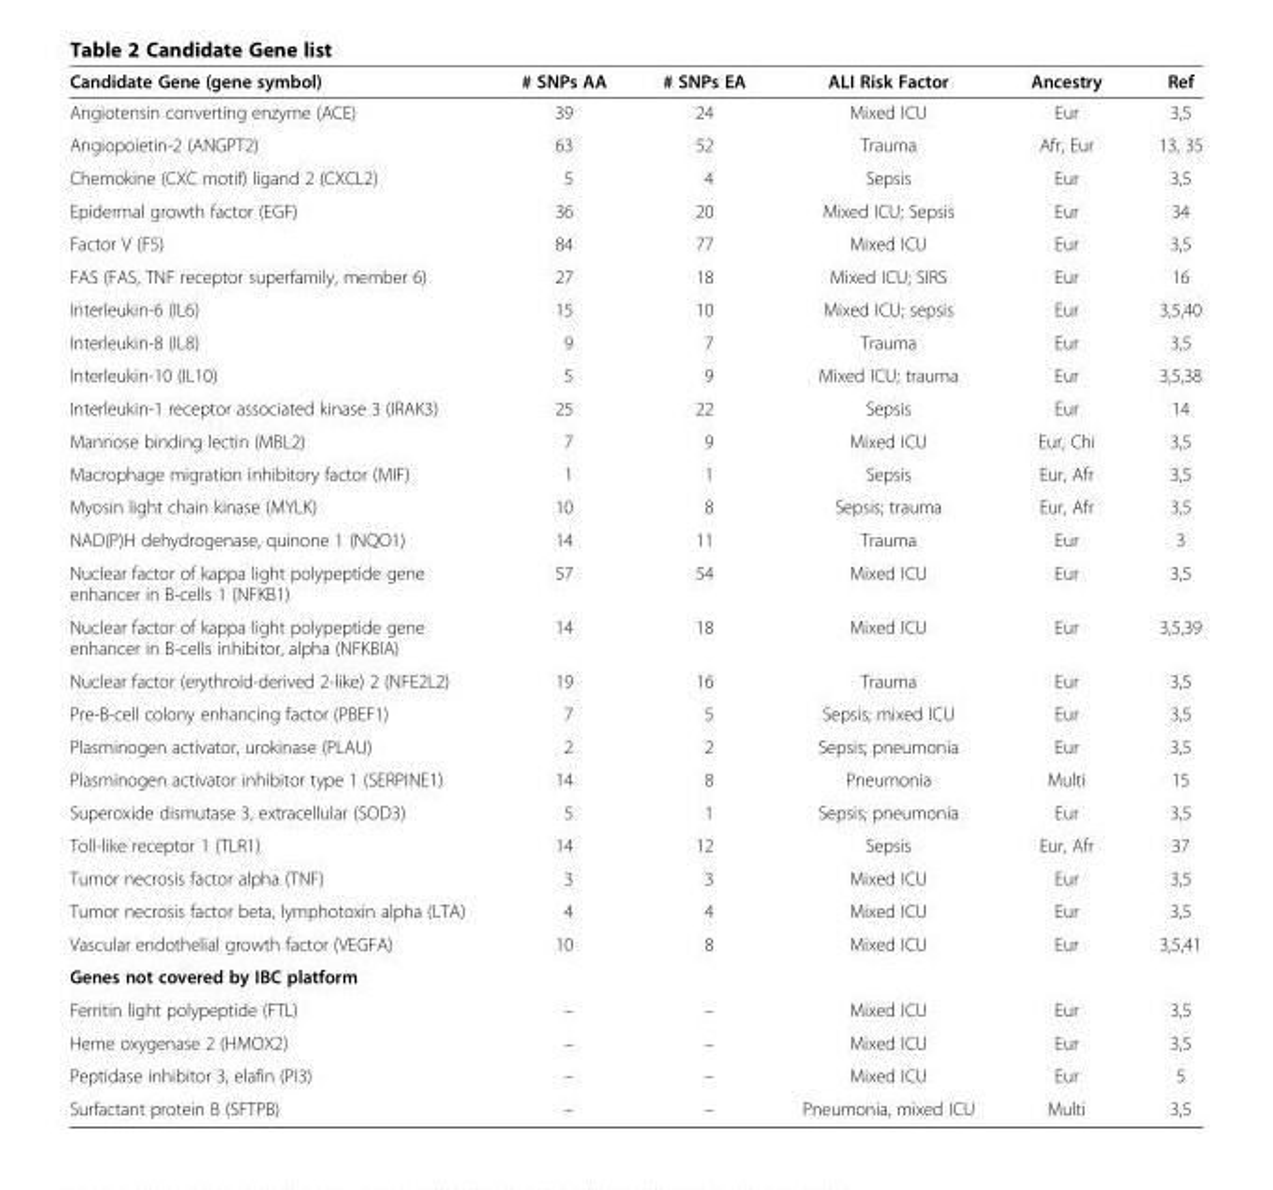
<table><thead><tr><td>Candidate Gene (gene symbol)</td><td># SNPs AA</td><td># SNPs EA</td><td>ALI Risk Factor</td><td>Ancestry</td><td>Ref</td></tr></thead><tbody><tr><td>Angiotensin converting enzyme (ACE)</td><td>39</td><td>24</td><td>Mixed ICU</td><td>Eur</td><td>3,5</td></tr><tr><td>Angiopoietin-2 (ANGPT2)</td><td>63</td><td>52</td><td>Trauma</td><td>Afr, Eur</td><td>13, 35</td></tr><tr><td>Chemokine (CXC motif) ligand 2 (CXCL2)</td><td>5</td><td>4</td><td>Sepsis</td><td>Eur</td><td>3,5</td></tr><tr><td>Epidermal growth factor (EGF)</td><td>36</td><td>20</td><td>Mixed ICU; Sepsis</td><td>Eur</td><td>34</td></tr><tr><td>Factor V (F5)</td><td>84</td><td>77</td><td>Mixed ICU</td><td>Eur</td><td>3,5</td></tr><tr><td>FAS (FAS, TNF receptor superfamily, member 6)</td><td>27</td><td>18</td><td>Mixed ICU; SIRS</td><td>Eur</td><td>16</td></tr><tr><td>Interleukin-6 (IL6)</td><td>15</td><td>10</td><td>Mixed ICU; sepsis</td><td>Eur</td><td>3,5,40</td></tr><tr><td>Interleukin-8 (IL8)</td><td>9</td><td>7</td><td>Trauma</td><td>Eur</td><td>3,5</td></tr><tr><td>Interleukin-10 (IL10)</td><td>5</td><td>9</td><td>Mixed ICU; trauma</td><td>Eur</td><td>3,5,38</td></tr><tr><td>Interleukin-1 receptor associated kinase 3 (IRAK3)</td><td>25</td><td>22</td><td>Sepsis</td><td>Eur</td><td>14</td></tr><tr><td>Mannose binding lectin (MBL2)</td><td>7</td><td>9</td><td>Mixed ICU</td><td>Eur, Chi</td><td>3,5</td></tr><tr><td>Macrophage migration inhibitory factor (MIF)</td><td>1</td><td>1</td><td>Sepsis</td><td>Eur, Afr</td><td>3,5</td></tr><tr><td>Myosin light chain kinase (MYLK)</td><td>10</td><td>8</td><td>Sepsis; trauma</td><td>Eur, Afr</td><td>3,5</td></tr><tr><td>NAD(P)H dehydrogenase, quinone 1 (NQO1)</td><td>14</td><td>11</td><td>Trauma</td><td>Eur</td><td>3</td></tr><tr><td>Nuclear factor of kappa light polypeptide gene enhancer in B-cells 1 (NFKB1)</td><td>57</td><td>54</td><td>Mixed ICU</td><td>Eur</td><td>3,5</td></tr><tr><td>Nuclear factor of kappa light polypeptide gene enhancer in B-cells inhibitor, alpha (NFKBIA)</td><td>14</td><td>18</td><td>Mixed ICU</td><td>Eur</td><td>3,5,39</td></tr><tr><td>Nuclear factor (erythroid-derived 2-like) 2 (NFE2L2)</td><td>19</td><td>16</td><td>Trauma</td><td>Eur</td><td>3,5</td></tr><tr><td>Pre-B-cell colony enhancing factor (PBEF1)</td><td>7</td><td>5</td><td>Sepsis; mixed ICU</td><td>Eur</td><td>3,5</td></tr><tr><td>Plasminogen activator, urokinase (PLAU)</td><td>2</td><td>2</td><td>Sepsis; pneumonia</td><td>Eur</td><td>3,5</td></tr><tr><td>Plasminogen activator inhibitor type 1 (SERPINE1)</td><td>14</td><td>8</td><td>Pneumonia</td><td>Multi</td><td>15</td></tr><tr><td>Superoxide dismutase 3, extracellular (SOD3)</td><td>5</td><td>1</td><td>Sepsis; pneumonia</td><td>Eur</td><td>3,5</td></tr><tr><td>Toll-like receptor 1 (TLR1)</td><td>14</td><td>12</td><td>Sepsis</td><td>Eur, Afr</td><td>37</td></tr><tr><td>Tumor necrosis factor alpha (TNF)</td><td>3</td><td>3</td><td>Mixed ICU</td><td>Eur</td><td>3,5</td></tr><tr><td>Tumor necrosis factor beta, lymphotoxin alpha (LTA)</td><td>4</td><td>4</td><td>Mixed ICU</td><td>Eur</td><td>3,5</td></tr><tr><td>Vascular endothelial growth factor (VEGFA)</td><td>10</td><td>8</td><td>Mixed ICU</td><td>Eur</td><td>3,5,41</td></tr><tr><td colspan="6">Genes not covered by IBC platform</td></tr><tr><td>Ferritin light polypeptide (FTL)</td><td>–</td><td>–</td><td>Mixed ICU</td><td>Eur</td><td>3,5</td></tr><tr><td>Heme oxygenase 2 (HMOX2)</td><td>–</td><td>–</td><td>Mixed ICU</td><td>Eur</td><td>3,5</td></tr><tr><td>Peptidase inhibitor 3, elafin (PI3)</td><td>–</td><td>–</td><td>Mixed ICU</td><td>Eur</td><td>5</td></tr><tr><td>Surfactant protein B (SFTPB)</td><td>–</td><td>–</td><td>Pneumonia, mixed ICU</td><td>Multi</td><td>3,5</td></tr></tbody></table>